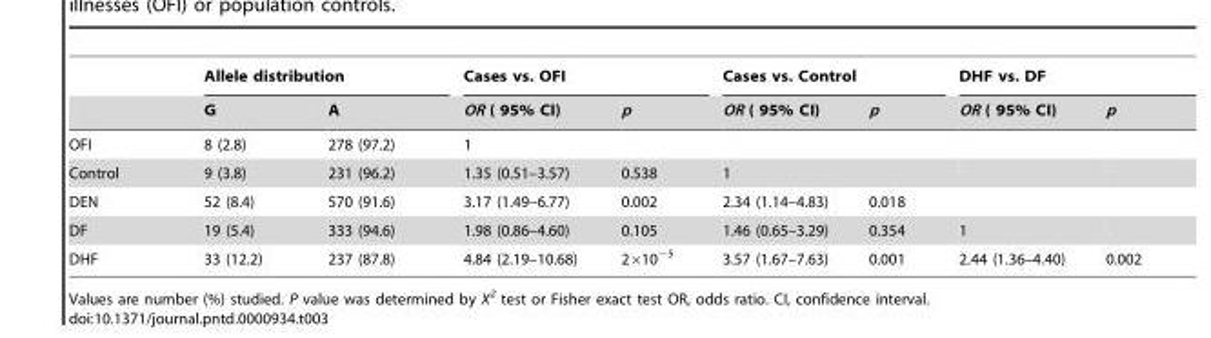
<table><thead><tr><td rowspan="2"></td><td colspan="2">Allele distribution</td><td colspan="2">Cases vs. OFI</td><td colspan="2">Cases vs. Control</td><td colspan="2">DHF vs. DF</td></tr><tr><td>G</td><td>A</td><td>OR ( 95% CI)</td><td>p</td><td>OR ( 95% CI)</td><td>p</td><td>OR ( 95% CI)</td><td>p</td></tr></thead><tbody><tr><td>OFI</td><td>8 (2.8)</td><td>278 (97.2)</td><td>1</td><td></td><td></td><td></td><td></td><td></td></tr><tr><td>Control</td><td>9 (3.8)</td><td>231 (96.2)</td><td>1.35 (0.51–3.57)</td><td>0.538</td><td>1</td><td></td><td></td><td></td></tr><tr><td>DEN</td><td>52 (8.4)</td><td>570 (91.6)</td><td>3.17 (1.49–6.77)</td><td>0.002</td><td>2.34 (1.14–4.83)</td><td>0.018</td><td></td><td></td></tr><tr><td>DF</td><td>19 (5.4)</td><td>333 (94.6)</td><td>1.98 (0.86–4.60)</td><td>0.105</td><td>1.46 (0.65–3.29)</td><td>0.354</td><td>1</td><td></td></tr><tr><td>DHF</td><td>33 (12.2)</td><td>237 (87.8)</td><td>4.84 (2.19–10.68)</td><td>2×10<sup>−5</sup></td><td>3.57 (1.67–7.63)</td><td>0.001</td><td>2.44 (1.36–4.40)</td><td>0.002</td></tr></tbody></table>